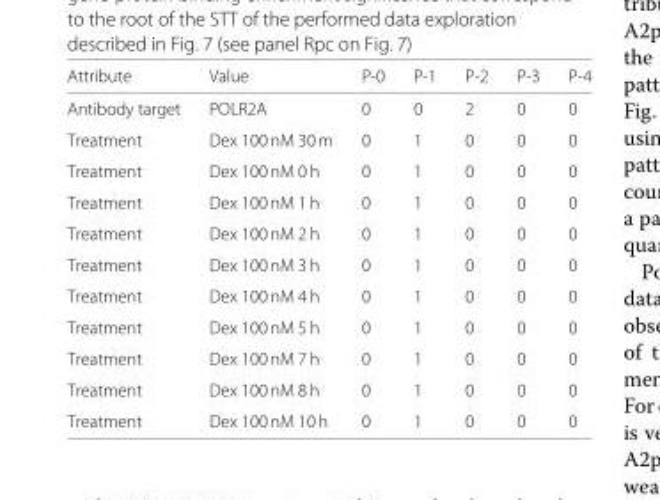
<table><thead><tr><td>Attribute</td><td>Value</td><td>P-0</td><td>P-1</td><td>P-2</td><td>P-3</td><td>P-4</td></tr></thead><tbody><tr><td>Antibody target</td><td>POLR2A</td><td>0</td><td>0</td><td>2</td><td>0</td><td>0</td></tr><tr><td>Treatment</td><td>Dex 100 nM 30 m</td><td>0</td><td>1</td><td>0</td><td>0</td><td>0</td></tr><tr><td>Treatment</td><td>Dex 100 nM 0 h</td><td>0</td><td>1</td><td>0</td><td>0</td><td>0</td></tr><tr><td>Treatment</td><td>Dex 100 nM 1 h</td><td>0</td><td>1</td><td>0</td><td>0</td><td>0</td></tr><tr><td>Treatment</td><td>Dex 100 nM 2 h</td><td>0</td><td>1</td><td>0</td><td>0</td><td>0</td></tr><tr><td>Treatment</td><td>Dex 100 nM 3 h</td><td>0</td><td>1</td><td>0</td><td>0</td><td>0</td></tr><tr><td>Treatment</td><td>Dex 100 nM 4 h</td><td>0</td><td>1</td><td>0</td><td>0</td><td>0</td></tr><tr><td>Treatment</td><td>Dex 100 nM 5 h</td><td>0</td><td>1</td><td>0</td><td>0</td><td>0</td></tr><tr><td>Treatment</td><td>Dex 100 nM 7 h</td><td>0</td><td>1</td><td>0</td><td>0</td><td>0</td></tr><tr><td>Treatment</td><td>Dex 100 nM 8 h</td><td>0</td><td>1</td><td>0</td><td>0</td><td>0</td></tr><tr><td>Treatment</td><td>Dex 100 nM 10 h</td><td>0</td><td>1</td><td>0</td><td>0</td><td>0</td></tr></tbody></table>